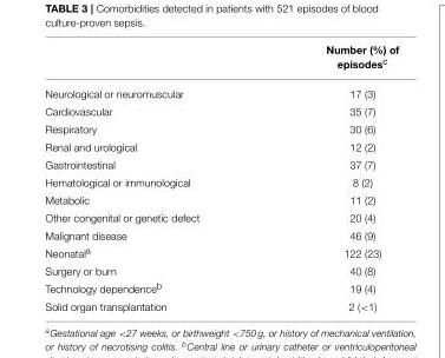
<table><thead><tr><td></td><td>Number (%) of episodes<sup>c</sup></td></tr></thead><tbody><tr><td>Neurological or neuromuscular</td><td>17 (3)</td></tr><tr><td>Cardiovascular</td><td>35 (7)</td></tr><tr><td>Respiratory</td><td>30 (6)</td></tr><tr><td>Renal and urological</td><td>12 (2)</td></tr><tr><td>Gastrointestinal</td><td>37 (7)</td></tr><tr><td>Hematological or immunological</td><td>8 (2)</td></tr><tr><td>Metabolic</td><td>11 (2)</td></tr><tr><td>Other congenital or genetic defect</td><td>20 (4)</td></tr><tr><td>Malignant disease</td><td>46 (9)</td></tr><tr><td>Neonatal<sup>a</sup></td><td>122 (23)</td></tr><tr><td>Surgery or burn</td><td>40 (8)</td></tr><tr><td>Technology dependence<sup>b</sup></td><td>19 (4)</td></tr><tr><td>Solid organ transplantation</td><td>2 (&lt;1)</td></tr></tbody></table>